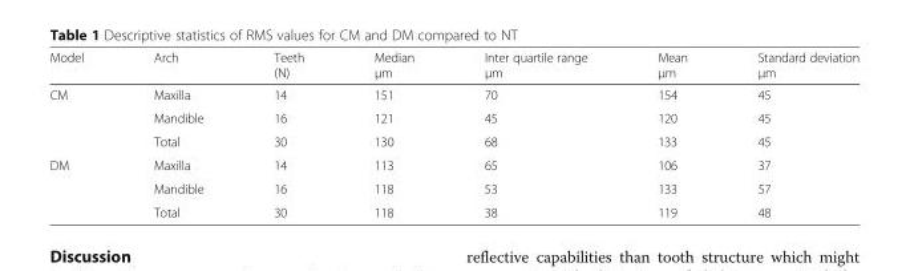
<table><thead><tr><td>Model</td><td>Arch</td><td>Teeth (N)</td><td>Median μm</td><td>Inter quartile range μm</td><td>Mean μm</td><td>Standard deviation μm</td></tr></thead><tbody><tr><td rowspan="3">CM</td><td>Maxilla</td><td>14</td><td>151</td><td>70</td><td>154</td><td>45</td></tr><tr><td>Mandible</td><td>16</td><td>121</td><td>45</td><td>120</td><td>45</td></tr><tr><td>Total</td><td>30</td><td>130</td><td>68</td><td>133</td><td>45</td></tr><tr><td rowspan="3">DM</td><td>Maxilla</td><td>14</td><td>113</td><td>65</td><td>106</td><td>37</td></tr><tr><td>Mandible</td><td>16</td><td>118</td><td>53</td><td>133</td><td>57</td></tr><tr><td>Total</td><td>30</td><td>118</td><td>38</td><td>119</td><td>48</td></tr></tbody></table>